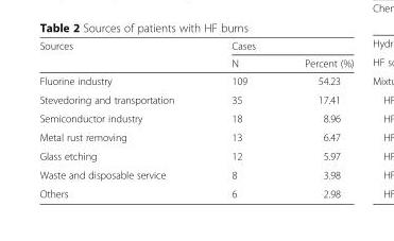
<table><thead><tr><td rowspan="2">Sources</td><td colspan="2">Cases</td></tr><tr><td>N</td><td>Percent (%)</td></tr></thead><tbody><tr><td>Fluorine industry</td><td>109</td><td>54.23</td></tr><tr><td>Stevedoring and transportation</td><td>35</td><td>17.41</td></tr><tr><td>Semiconductor industry</td><td>18</td><td>8.96</td></tr><tr><td>Metal rust removing</td><td>13</td><td>6.47</td></tr><tr><td>Glass etching</td><td>12</td><td>5.97</td></tr><tr><td>Waste and disposable service</td><td>8</td><td>3.98</td></tr><tr><td>Others</td><td>6</td><td>2.98</td></tr></tbody></table>